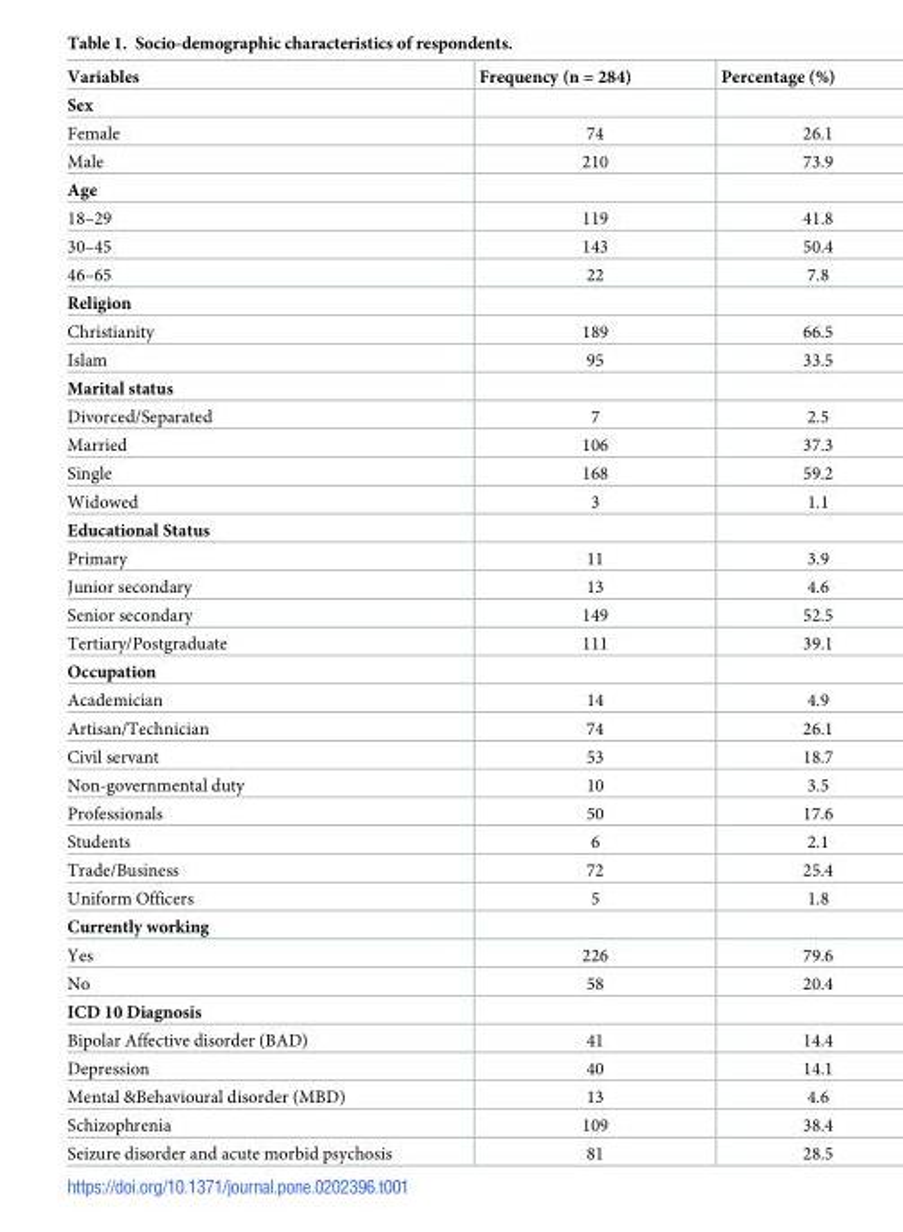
<table><thead><tr><td>Variables</td><td>Frequency (n = 284)</td><td>Percentage (%)</td></tr></thead><tbody><tr><td colspan="3">Sex</td></tr><tr><td>Female</td><td>74</td><td>26.1</td></tr><tr><td>Male</td><td>210</td><td>73.9</td></tr><tr><td colspan="3">Age</td></tr><tr><td>18–29</td><td>119</td><td>41.8</td></tr><tr><td>30–45</td><td>143</td><td>50.4</td></tr><tr><td>46–65</td><td>22</td><td>7.8</td></tr><tr><td colspan="3">Religion</td></tr><tr><td>Christianity</td><td>189</td><td>66.5</td></tr><tr><td>Islam</td><td>95</td><td>33.5</td></tr><tr><td colspan="3">Marital status</td></tr><tr><td>Divorced/Separated</td><td>7</td><td>2.5</td></tr><tr><td>Married</td><td>106</td><td>37.3</td></tr><tr><td>Single</td><td>168</td><td>59.2</td></tr><tr><td>Widowed</td><td>3</td><td>1.1</td></tr><tr><td colspan="3">Educational Status</td></tr><tr><td>Primary</td><td>11</td><td>3.9</td></tr><tr><td>Junior secondary</td><td>13</td><td>4.6</td></tr><tr><td>Senior secondary</td><td>149</td><td>52.5</td></tr><tr><td>Tertiary/Postgraduate</td><td>111</td><td>39.1</td></tr><tr><td colspan="3">Occupation</td></tr><tr><td>Academician</td><td>14</td><td>4.9</td></tr><tr><td>Artisan/Technician</td><td>74</td><td>26.1</td></tr><tr><td>Civil servant</td><td>53</td><td>18.7</td></tr><tr><td>Non-governmental duty</td><td>10</td><td>3.5</td></tr><tr><td>Professionals</td><td>50</td><td>17.6</td></tr><tr><td>Students</td><td>6</td><td>2.1</td></tr><tr><td>Trade/Business</td><td>72</td><td>25.4</td></tr><tr><td>Uniform Officers</td><td>5</td><td>1.8</td></tr><tr><td colspan="3">Currently working</td></tr><tr><td>Yes</td><td>226</td><td>79.6</td></tr><tr><td>No</td><td>58</td><td>20.4</td></tr><tr><td colspan="3">ICD 10 Diagnosis</td></tr><tr><td>Bipolar Affective disorder (BAD)</td><td>41</td><td>14.4</td></tr><tr><td>Depression</td><td>40</td><td>14.1</td></tr><tr><td>Mental &amp;Behavioural disorder (MBD)</td><td>13</td><td>4.6</td></tr><tr><td>Schizophrenia</td><td>109</td><td>38.4</td></tr><tr><td>Seizure disorder and acute morbid psychosis</td><td>81</td><td>28.5</td></tr></tbody></table>